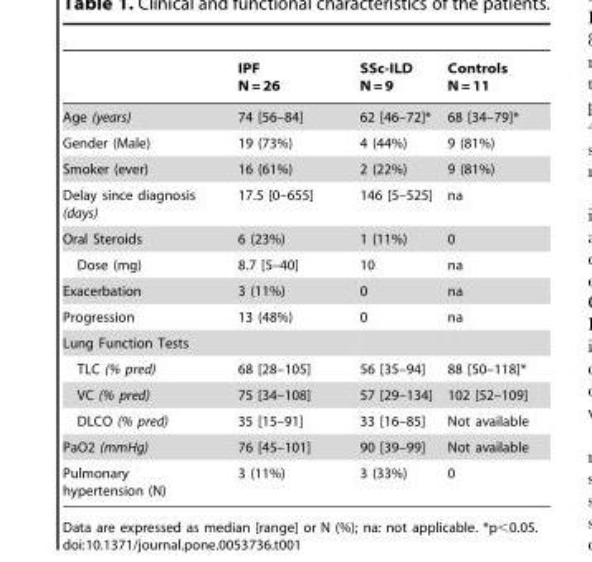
<table><thead><tr><td></td><td>IPF N = 26</td><td>SSc-ILD N = 9</td><td>Controls N = 11</td></tr></thead><tbody><tr><td>Age (years)</td><td>74 [56–84]</td><td>62 [46–72]*</td><td>68 [34–79]*</td></tr><tr><td>Gender (Male)</td><td>19 (73%)</td><td>4 (44%)</td><td>9 (81%)</td></tr><tr><td>Smoker (ever)</td><td>16 (61%)</td><td>2 (22%)</td><td>9 (81%)</td></tr><tr><td>Delay since diagnosis (days)</td><td>17.5 [0–655]</td><td>146 [5–525]</td><td>na</td></tr><tr><td>Oral Steroids</td><td>6 (23%)</td><td>1 (11%)</td><td>0</td></tr><tr><td>Dose (mg)</td><td>8.7 [5–40]</td><td>10</td><td>na</td></tr><tr><td>Exacerbation</td><td>3 (11%)</td><td>0</td><td>na</td></tr><tr><td>Progression</td><td>13 (48%)</td><td>0</td><td>na</td></tr><tr><td colspan="4">Lung Function Tests</td></tr><tr><td>TLC (% pred)</td><td>68 [28–105]</td><td>56 [35–94]</td><td>88 [50–118]*</td></tr><tr><td>VC (% pred)</td><td>75 [34–108]</td><td>57 [29–134]</td><td>102 [52–109]</td></tr><tr><td>DLCO (% pred)</td><td>35 [15–91]</td><td>33 [16–85]</td><td>Not available</td></tr><tr><td>PaO2 (mmHg)</td><td>76 [45–101]</td><td>90 [39–99]</td><td>Not available</td></tr><tr><td>Pulmonary hypertension (N)</td><td>3 (11%)</td><td>3 (33%)</td><td>0</td></tr></tbody></table>